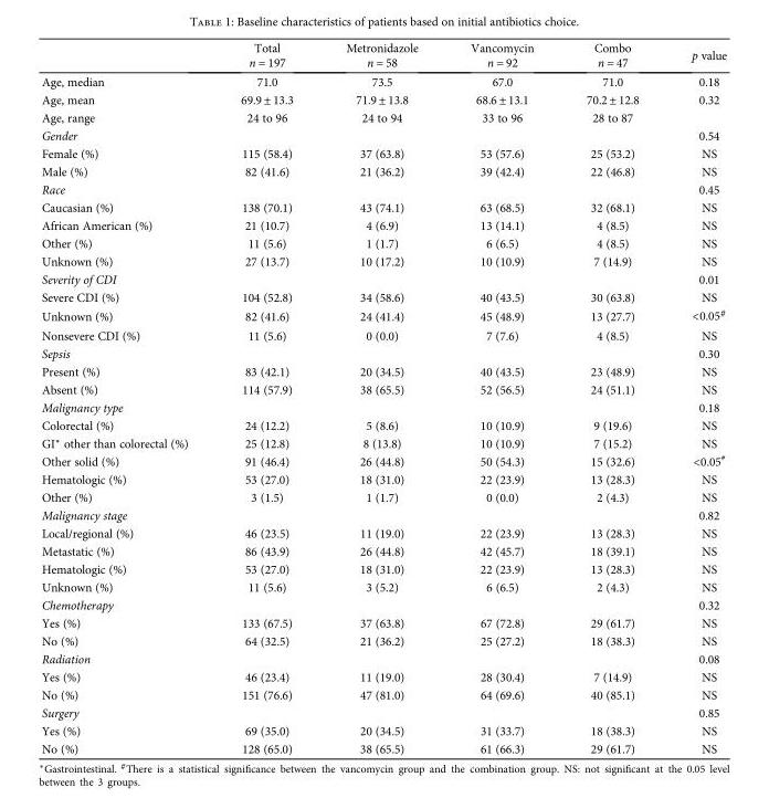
<table><thead><tr><td></td><td>Total n = 197</td><td>Metronidazole n = 58</td><td>Vancomycin n = 92</td><td>Combo n = 47</td><td>p value</td></tr></thead><tbody><tr><td>Age, median</td><td>71.0</td><td>73.5</td><td>67.0</td><td>71.0</td><td>0.18</td></tr><tr><td>Age, mean</td><td>69.9 ± 13.3</td><td>71.9 ± 13.8</td><td>68.6 ± 13.1</td><td>70.2 ± 12.8</td><td>0.32</td></tr><tr><td>Age, range</td><td>24 to 96</td><td>24 to 94</td><td>33 to 96</td><td>28 to 87</td><td></td></tr><tr><td colspan="5">Gender</td><td>0.54</td></tr><tr><td>Female (%)</td><td>115 (58.4)</td><td>37 (63.8)</td><td>53 (57.6)</td><td>25 (53.2)</td><td>NS</td></tr><tr><td>Male (%)</td><td>82 (41.6)</td><td>21 (36.2)</td><td>39 (42.4)</td><td>22 (46.8)</td><td>NS</td></tr><tr><td colspan="5">Race</td><td>0.45</td></tr><tr><td>Caucasian (%)</td><td>138 (70.1)</td><td>43 (74.1)</td><td>63 (68.5)</td><td>32 (68.1)</td><td>NS</td></tr><tr><td>African American (%)</td><td>21 (10.7)</td><td>4 (6.9)</td><td>13 (14.1)</td><td>4 (8.5)</td><td>NS</td></tr><tr><td>Other (%)</td><td>11 (5.6)</td><td>1 (1.7)</td><td>6 (6.5)</td><td>4 (8.5)</td><td>NS</td></tr><tr><td>Unknown (%)</td><td>27 (13.7)</td><td>10 (17.2)</td><td>10 (10.9)</td><td>7 (14.9)</td><td>NS</td></tr><tr><td colspan="5">Severity of CDI</td><td>0.01</td></tr><tr><td>Severe CDI (%)</td><td>104 (52.8)</td><td>34 (58.6)</td><td>40 (43.5)</td><td>30 (63.8)</td><td>NS</td></tr><tr><td>Unknown (%)</td><td>82 (41.6)</td><td>24 (41.4)</td><td>45 (48.9)</td><td>13 (27.7)</td><td>&lt;0.05<sup>#</sup></td></tr><tr><td>Nonsevere CDI (%)</td><td>11 (5.6)</td><td>0 (0.0)</td><td>7 (7.6)</td><td>4 (8.5)</td><td>NS</td></tr><tr><td colspan="5">Sepsis</td><td>0.30</td></tr><tr><td>Present (%)</td><td>83 (42.1)</td><td>20 (34.5)</td><td>40 (43.5)</td><td>23 (48.9)</td><td>NS</td></tr><tr><td>Absent (%)</td><td>114 (57.9)</td><td>38 (65.5)</td><td>52 (56.5)</td><td>24 (51.1)</td><td>NS</td></tr><tr><td colspan="5">Malignancy type</td><td>0.18</td></tr><tr><td>Colorectal (%)</td><td>24 (12.2)</td><td>5 (8.6)</td><td>10 (10.9)</td><td>9 (19.6)</td><td>NS</td></tr><tr><td>GI∗ other than colorectal (%)</td><td>25 (12.8)</td><td>8 (13.8)</td><td>10 (10.9)</td><td>7 (15.2)</td><td>NS</td></tr><tr><td>Other solid (%)</td><td>91 (46.4)</td><td>26 (44.8)</td><td>50 (54.3)</td><td>15 (32.6)</td><td>&lt;0.05<sup>#</sup></td></tr><tr><td>Hematologic (%)</td><td>53 (27.0)</td><td>18 (31.0)</td><td>22 (23.9)</td><td>13 (28.3)</td><td>NS</td></tr><tr><td>Other (%)</td><td>3 (1.5)</td><td>1 (1.7)</td><td>0 (0.0)</td><td>2 (4.3)</td><td>NS</td></tr><tr><td colspan="5">Malignancy stage</td><td>0.82</td></tr><tr><td>Local/regional (%)</td><td>46 (23.5)</td><td>11 (19.0)</td><td>22 (23.9)</td><td>13 (28.3)</td><td>NS</td></tr><tr><td>Metastatic (%)</td><td>86 (43.9)</td><td>26 (44.8)</td><td>42 (45.7)</td><td>18 (39.1)</td><td>NS</td></tr><tr><td>Hematologic (%)</td><td>53 (27.0)</td><td>18 (31.0)</td><td>22 (23.9)</td><td>13 (28.3)</td><td>NS</td></tr><tr><td>Unknown (%)</td><td>11 (5.6)</td><td>3 (5.2)</td><td>6 (6.5)</td><td>2 (4.3)</td><td>NS</td></tr><tr><td colspan="5">Chemotherapy</td><td>0.32</td></tr><tr><td>Yes (%)</td><td>133 (67.5)</td><td>37 (63.8)</td><td>67 (72.8)</td><td>29 (61.7)</td><td>NS</td></tr><tr><td>No (%)</td><td>64 (32.5)</td><td>21 (36.2)</td><td>25 (27.2)</td><td>18 (38.3)</td><td>NS</td></tr><tr><td colspan="5">Radiation</td><td>0.08</td></tr><tr><td>Yes (%)</td><td>46 (23.4)</td><td>11 (19.0)</td><td>28 (30.4)</td><td>7 (14.9)</td><td>NS</td></tr><tr><td>No (%)</td><td>151 (76.6)</td><td>47 (81.0)</td><td>64 (69.6)</td><td>40 (85.1)</td><td>NS</td></tr><tr><td colspan="5">Surgery</td><td>0.85</td></tr><tr><td>Yes (%)</td><td>69 (35.0)</td><td>20 (34.5)</td><td>31 (33.7)</td><td>18 (38.3)</td><td>NS</td></tr><tr><td>No (%)</td><td>128 (65.0)</td><td>38 (65.5)</td><td>61 (66.3)</td><td>29 (61.7)</td><td>NS</td></tr></tbody></table>